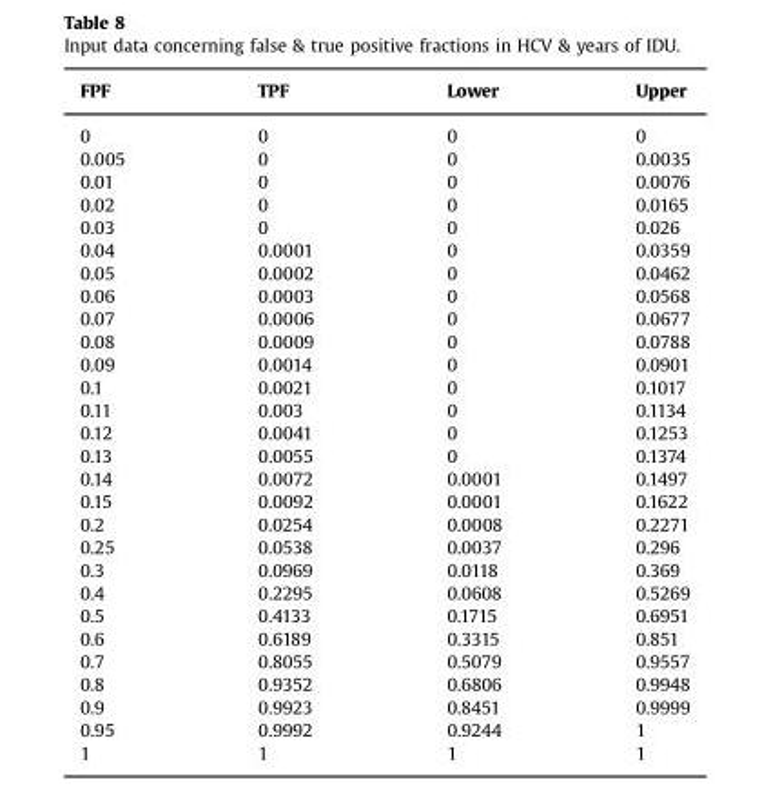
<table><thead><tr><td>FPF</td><td>TPF</td><td>Lower</td><td>Upper</td></tr></thead><tbody><tr><td>0</td><td>0</td><td>0</td><td>0</td></tr><tr><td>0.005</td><td>0</td><td>0</td><td>0.0035</td></tr><tr><td>0.01</td><td>0</td><td>0</td><td>0.0076</td></tr><tr><td>0.02</td><td>0</td><td>0</td><td>0.0165</td></tr><tr><td>0.03</td><td>0</td><td>0</td><td>0.026</td></tr><tr><td>0.04</td><td>0.0001</td><td>0</td><td>0.0359</td></tr><tr><td>0.05</td><td>0.0002</td><td>0</td><td>0.0462</td></tr><tr><td>0.06</td><td>0.0003</td><td>0</td><td>0.0568</td></tr><tr><td>0.07</td><td>0.0006</td><td>0</td><td>0.0677</td></tr><tr><td>0.08</td><td>0.0009</td><td>0</td><td>0.0788</td></tr><tr><td>0.09</td><td>0.0014</td><td>0</td><td>0.0901</td></tr><tr><td>0.1</td><td>0.0021</td><td>0</td><td>0.1017</td></tr><tr><td>0.11</td><td>0.003</td><td>0</td><td>0.1134</td></tr><tr><td>0.12</td><td>0.0041</td><td>0</td><td>0.1253</td></tr><tr><td>0.13</td><td>0.0055</td><td>0</td><td>0.1374</td></tr><tr><td>0.14</td><td>0.0072</td><td>0.0001</td><td>0.1497</td></tr><tr><td>0.15</td><td>0.0092</td><td>0.0001</td><td>0.1622</td></tr><tr><td>0.2</td><td>0.0254</td><td>0.0008</td><td>0.2271</td></tr><tr><td>0.25</td><td>0.0538</td><td>0.0037</td><td>0.296</td></tr><tr><td>0.3</td><td>0.0969</td><td>0.0118</td><td>0.369</td></tr><tr><td>0.4</td><td>0.2295</td><td>0.0608</td><td>0.5269</td></tr><tr><td>0.5</td><td>0.4133</td><td>0.1715</td><td>0.6951</td></tr><tr><td>0.6</td><td>0.6189</td><td>0.3315</td><td>0.851</td></tr><tr><td>0.7</td><td>0.8055</td><td>0.5079</td><td>0.9557</td></tr><tr><td>0.8</td><td>0.9352</td><td>0.6806</td><td>0.9948</td></tr><tr><td>0.9</td><td>0.9923</td><td>0.8451</td><td>0.9999</td></tr><tr><td>0.95</td><td>0.9992</td><td>0.9244</td><td>1</td></tr><tr><td>1</td><td>1</td><td>1</td><td>1</td></tr></tbody></table>